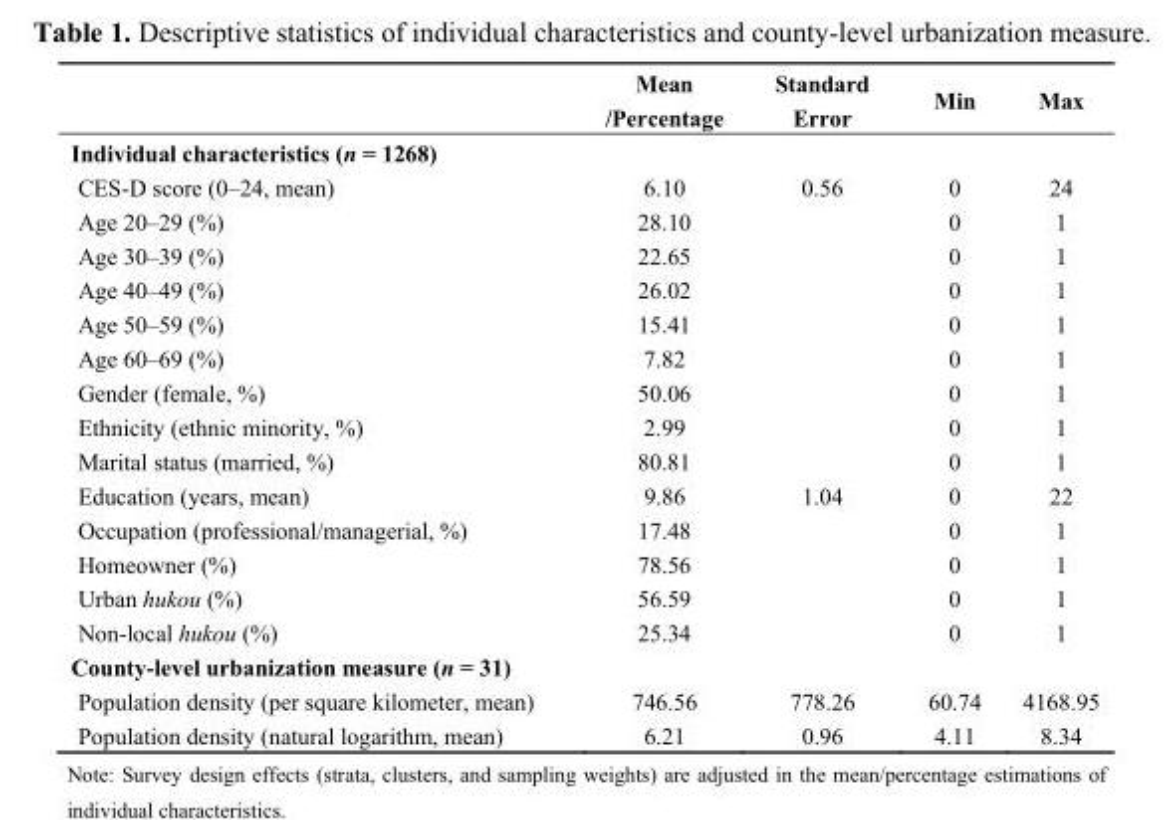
<table><thead><tr><td></td><td>Mean /Percentage</td><td>Standard Error</td><td>Min</td><td>Max</td></tr></thead><tbody><tr><td colspan="5">Individual characteristics (n = 1268)</td></tr><tr><td>CES-D score (0–24, mean)</td><td>6.10</td><td>0.56</td><td>0</td><td>24</td></tr><tr><td>Age 20–29 (%)</td><td>28.10</td><td></td><td>0</td><td>1</td></tr><tr><td>Age 30–39 (%)</td><td>22.65</td><td></td><td>0</td><td>1</td></tr><tr><td>Age 40–49 (%)</td><td>26.02</td><td></td><td>0</td><td>1</td></tr><tr><td>Age 50–59 (%)</td><td>15.41</td><td></td><td>0</td><td>1</td></tr><tr><td>Age 60–69 (%)</td><td>7.82</td><td></td><td>0</td><td>1</td></tr><tr><td>Gender (female, %)</td><td>50.06</td><td></td><td>0</td><td>1</td></tr><tr><td>Ethnicity (ethnic minority, %)</td><td>2.99</td><td></td><td>0</td><td>1</td></tr><tr><td>Marital status (married, %)</td><td>80.81</td><td></td><td>0</td><td>1</td></tr><tr><td>Education (years, mean)</td><td>9.86</td><td>1.04</td><td>0</td><td>22</td></tr><tr><td>Occupation (professional/managerial, %)</td><td>17.48</td><td></td><td>0</td><td>1</td></tr><tr><td>Homeowner (%)</td><td>78.56</td><td></td><td>0</td><td>1</td></tr><tr><td>Urban hukou (%)</td><td>56.59</td><td></td><td>0</td><td>1</td></tr><tr><td>Non-local hukou (%)</td><td>25.34</td><td></td><td>0</td><td>1</td></tr><tr><td colspan="5">County-level urbanization measure (n = 31)</td></tr><tr><td>Population density (per square kilometer, mean)</td><td>746.56</td><td>778.26</td><td>60.74</td><td>4168.95</td></tr><tr><td>Population density (natural logarithm, mean)</td><td>6.21</td><td>0.96</td><td>4.11</td><td>8.34</td></tr></tbody></table>